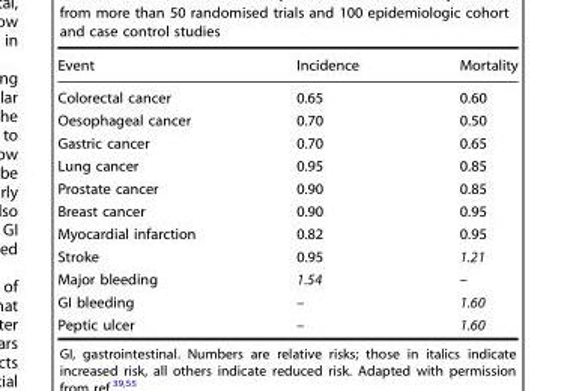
<table><thead><tr><td>Event</td><td>Incidence</td><td>Mortality</td></tr></thead><tbody><tr><td>Colorectal cancer</td><td>0.65</td><td>0.60</td></tr><tr><td>Oesophageal cancer</td><td>0.70</td><td>0.50</td></tr><tr><td>Gastric cancer</td><td>0.70</td><td>0.65</td></tr><tr><td>Lung cancer</td><td>0.95</td><td>0.85</td></tr><tr><td>Prostate cancer</td><td>0.90</td><td>0.85</td></tr><tr><td>Breast cancer</td><td>0.90</td><td>0.95</td></tr><tr><td>Myocardial infarction</td><td>0.82</td><td>0.95</td></tr><tr><td>Stroke</td><td>0.95</td><td>1.21</td></tr><tr><td>Major bleeding</td><td>1.54</td><td>–</td></tr><tr><td>GI bleeding</td><td>–</td><td>1.60</td></tr><tr><td>Peptic ulcer</td><td>–</td><td>1.60</td></tr></tbody></table>